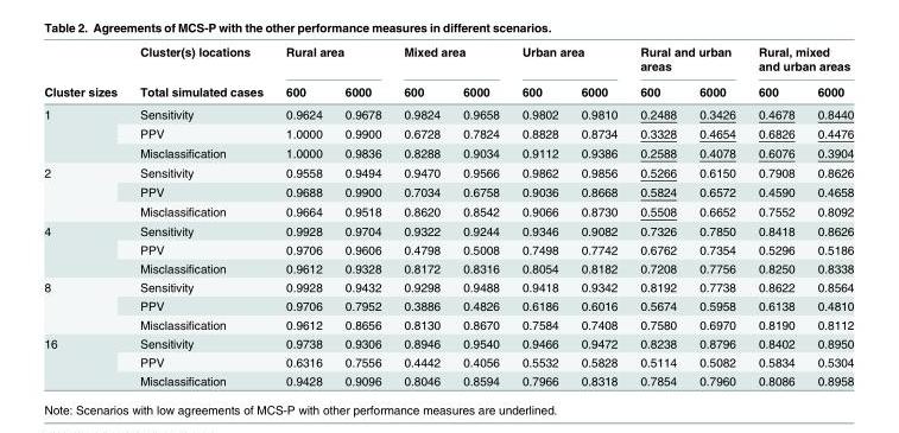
<table><thead><tr><td rowspan="2">Cluster sizes</td><td rowspan="2">Cluster(s) locations Total simulated cases</td><td colspan="2">Rural area</td><td colspan="2">Mixed area</td><td colspan="2">Urban area</td><td colspan="2">Rural and urban areas</td><td colspan="2">Rural, mixed and urban areas</td></tr><tr><td>600</td><td>6000</td><td>600</td><td>6000</td><td>600</td><td>6000</td><td>600</td><td>6000</td><td>600</td><td>6000</td></tr></thead><tbody><tr><td rowspan="3">1</td><td>Sensitivity</td><td>0.9624</td><td>0.9678</td><td>0.9824</td><td>0.9658</td><td>0.9802</td><td>0.9810</td><td>0.2488</td><td>0.3426</td><td>0.4678</td><td>0.8440</td></tr><tr><td>PPV</td><td>1.0000</td><td>0.9900</td><td>0.6728</td><td>0.7824</td><td>0.8828</td><td>0.8734</td><td>0.3328</td><td>0.4654</td><td>0.6826</td><td>0.4476</td></tr><tr><td>Misclassification</td><td>1.0000</td><td>0.9836</td><td>0.8288</td><td>0.9034</td><td>0.9112</td><td>0.9386</td><td>0.2588</td><td>0.4078</td><td>0.6076</td><td>0.3904</td></tr><tr><td rowspan="3">2</td><td>Sensitivity</td><td>0.9558</td><td>0.9494</td><td>0.9470</td><td>0.9566</td><td>0.9862</td><td>0.9856</td><td>0.5266</td><td>0.6150</td><td>0.7908</td><td>0.8626</td></tr><tr><td>PPV</td><td>0.9688</td><td>0.9900</td><td>0.7034</td><td>0.6758</td><td>0.9036</td><td>0.8668</td><td>0.5824</td><td>0.6572</td><td>0.4590</td><td>0.4658</td></tr><tr><td>Misclassification</td><td>0.9664</td><td>0.9518</td><td>0.8620</td><td>0.8542</td><td>0.9066</td><td>0.8730</td><td>0.5508</td><td>0.6652</td><td>0.7552</td><td>0.8092</td></tr><tr><td rowspan="3">4</td><td>Sensitivity</td><td>0.9928</td><td>0.9704</td><td>0.9322</td><td>0.9244</td><td>0.9346</td><td>0.9082</td><td>0.7326</td><td>0.7850</td><td>0.8418</td><td>0.8626</td></tr><tr><td>PPV</td><td>0.9706</td><td>0.9606</td><td>0.4798</td><td>0.5008</td><td>0.7498</td><td>0.7742</td><td>0.6762</td><td>0.7354</td><td>0.5296</td><td>0.5186</td></tr><tr><td>Misclassification</td><td>0.9612</td><td>0.9328</td><td>0.8172</td><td>0.8316</td><td>0.8054</td><td>0.8182</td><td>0.7208</td><td>0.7756</td><td>0.8250</td><td>0.8338</td></tr><tr><td rowspan="3">8</td><td>Sensitivity</td><td>0.9928</td><td>0.9432</td><td>0.9298</td><td>0.9488</td><td>0.9418</td><td>0.9342</td><td>0.8192</td><td>0.7738</td><td>0.8622</td><td>0.8564</td></tr><tr><td>PPV</td><td>0.9706</td><td>0.7952</td><td>0.3886</td><td>0.4826</td><td>0.6186</td><td>0.6016</td><td>0.5674</td><td>0.5958</td><td>0.6138</td><td>0.4810</td></tr><tr><td>Misclassification</td><td>0.9612</td><td>0.8656</td><td>0.8130</td><td>0.8670</td><td>0.7584</td><td>0.7408</td><td>0.7580</td><td>0.6970</td><td>0.8190</td><td>0.8112</td></tr><tr><td rowspan="3">16</td><td>Sensitivity</td><td>0.9738</td><td>0.9306</td><td>0.8946</td><td>0.9540</td><td>0.9466</td><td>0.9472</td><td>0.8238</td><td>0.8796</td><td>0.8402</td><td>0.8950</td></tr><tr><td>PPV</td><td>0.6316</td><td>0.7556</td><td>0.4442</td><td>0.4056</td><td>0.5532</td><td>0.5828</td><td>0.5114</td><td>0.5082</td><td>0.5834</td><td>0.5304</td></tr><tr><td>Misclassification</td><td>0.9428</td><td>0.9096</td><td>0.8046</td><td>0.8594</td><td>0.7966</td><td>0.8318</td><td>0.7854</td><td>0.7960</td><td>0.8086</td><td>0.8958</td></tr></tbody></table>